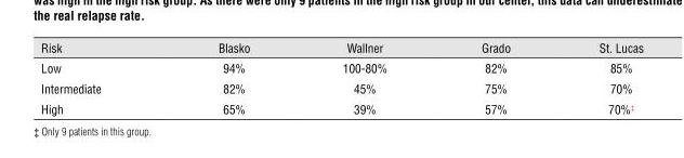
<table><thead><tr><td>Risk</td><td>Blasko</td><td>Wallner</td><td>Grado</td><td>St. Lucas</td></tr></thead><tbody><tr><td>Low</td><td>94%</td><td>100-80%</td><td>82%</td><td>85%</td></tr><tr><td>Intermediate</td><td>82%</td><td>45%</td><td>75%</td><td>70%</td></tr><tr><td>High</td><td>65%</td><td>39%</td><td>57%</td><td>70%‡</td></tr></tbody></table>